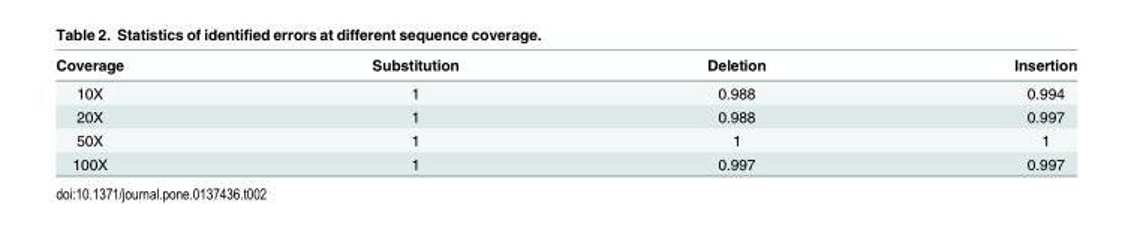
<table><thead><tr><td>Coverage</td><td>Substitution</td><td>Deletion</td><td>Insertion</td></tr></thead><tbody><tr><td>10X</td><td>1</td><td>0.988</td><td>0.994</td></tr><tr><td>20X</td><td>1</td><td>0.988</td><td>0.997</td></tr><tr><td>50X</td><td>1</td><td>1</td><td>1</td></tr><tr><td>100X</td><td>1</td><td>0.997</td><td>0.997</td></tr></tbody></table>